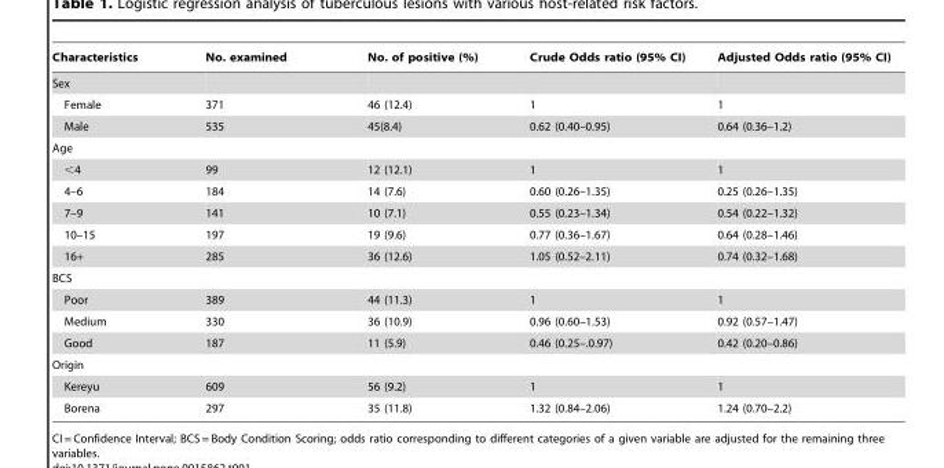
<table><thead><tr><td>Characteristics</td><td>No. examined</td><td>No. of positive (%)</td><td>Crude Odds ratio (95% CI)</td><td>Adjusted Odds ratio (95% CI)</td></tr></thead><tbody><tr><td colspan="5">Sex</td></tr><tr><td>Female</td><td>371</td><td>46 (12.4)</td><td>1</td><td>1</td></tr><tr><td>Male</td><td>535</td><td>45(8.4)</td><td>0.62 (0.40–0.95)</td><td>0.64 (0.36–1.2)</td></tr><tr><td colspan="5">Age</td></tr><tr><td>&lt;4</td><td>99</td><td>12 (12.1)</td><td>1</td><td>1</td></tr><tr><td>4–6</td><td>184</td><td>14 (7.6)</td><td>0.60 (0.26–1.35)</td><td>0.25 (0.26–1.35)</td></tr><tr><td>7–9</td><td>141</td><td>10 (7.1)</td><td>0.55 (0.23–1.34)</td><td>0.54 (0.22–1.32)</td></tr><tr><td>10–15</td><td>197</td><td>19 (9.6)</td><td>0.77 (0.36–1.67)</td><td>0.64 (0.28–1.46)</td></tr><tr><td>16+</td><td>285</td><td>36 (12.6)</td><td>1.05 (0.52–2.11)</td><td>0.74 (0.32–1.68)</td></tr><tr><td colspan="5">BCS</td></tr><tr><td>Poor</td><td>389</td><td>44 (11.3)</td><td>1</td><td>1</td></tr><tr><td>Medium</td><td>330</td><td>36 (10.9)</td><td>0.96 (0.60–1.53)</td><td>0.92 (0.57–1.47)</td></tr><tr><td>Good</td><td>187</td><td>11 (5.9)</td><td>0.46 (0.25–.0.97)</td><td>0.42 (0.20–0.86)</td></tr><tr><td colspan="5">Origin</td></tr><tr><td>Kereyu</td><td>609</td><td>56 (9.2)</td><td>1</td><td>1</td></tr><tr><td>Borena</td><td>297</td><td>35 (11.8)</td><td>1.32 (0.84–2.06)</td><td>1.24 (0.70–2.2)</td></tr></tbody></table>